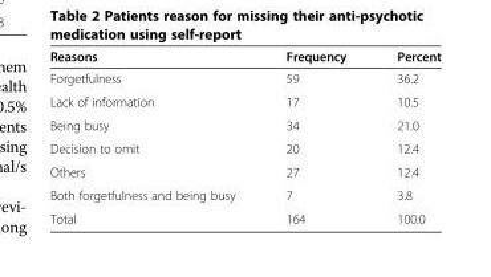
<table><thead><tr><td>Reasons</td><td>Frequency</td><td>Percent</td></tr></thead><tbody><tr><td>Forgetfulness</td><td>59</td><td>36.2</td></tr><tr><td>Lack of information</td><td>17</td><td>10.5</td></tr><tr><td>Being busy</td><td>34</td><td>21.0</td></tr><tr><td>Decision to omit</td><td>20</td><td>12.4</td></tr><tr><td>Others</td><td>27</td><td>12.4</td></tr><tr><td>Both forgetfulness and being busy</td><td>7</td><td>3.8</td></tr><tr><td>Total</td><td>164</td><td>100.0</td></tr></tbody></table>